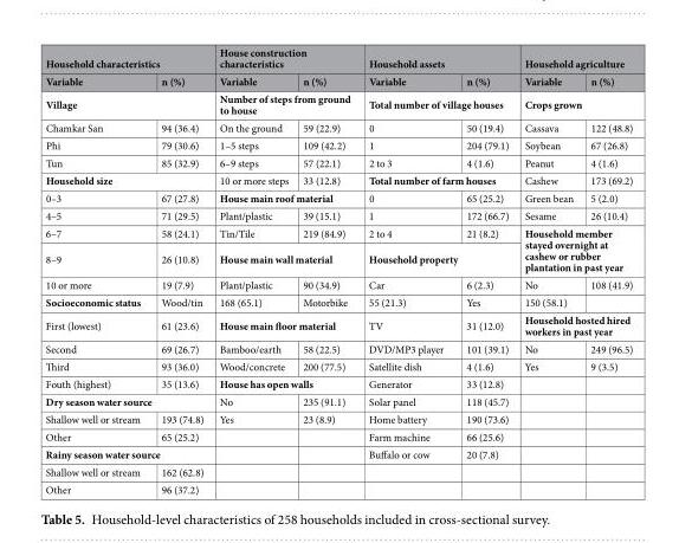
<table><thead><tr><td colspan="2">Household characteristics</td><td colspan="2">House construction characteristics</td><td colspan="2">Household assets</td><td colspan="2">Household agriculture</td></tr><tr><td>Variable</td><td>n (%)</td><td>Variable</td><td>n (%)</td><td>Variable</td><td>n (%)</td><td>Variable</td><td>n (%)</td></tr></thead><tbody><tr><td colspan="2">Village</td><td colspan="2">Number of steps from ground to house</td><td colspan="2">Total number of village houses</td><td colspan="2">Crops grown</td></tr><tr><td>Chamkar San</td><td>94 (36.4)</td><td>On the ground</td><td>59 (22.9)</td><td>0</td><td>50 (19.4)</td><td>Cassava</td><td>122 (48.8)</td></tr><tr><td>Phi</td><td>79 (30.6)</td><td>1–5 steps</td><td>109 (42.2)</td><td>1</td><td>204 (79.1)</td><td>Soybean</td><td>67 (26.8)</td></tr><tr><td>Tun</td><td>85 (32.9)</td><td>6–9 steps</td><td>57 (22.1)</td><td>2 to 3</td><td>4 (1.6)</td><td>Peanut</td><td>4 (1.6)</td></tr><tr><td colspan="2">Household size</td><td>10 or more steps</td><td>33 (12.8)</td><td colspan="2">Total number of farm houses</td><td>Cashew</td><td>173 (69.2)</td></tr><tr><td>0–3</td><td>67 (27.8)</td><td colspan="2">House main roof material</td><td>0</td><td>65 (25.2)</td><td>Green bean</td><td>5 (2.0)</td></tr><tr><td>4–5</td><td>71 (29.5)</td><td>Plant/plastic</td><td>39 (15.1)</td><td>1</td><td>172 (66.7)</td><td>Sesame</td><td>26 (10.4)</td></tr><tr><td>6–7</td><td>58 (24.1)</td><td>Tin/Tile</td><td>219 (84.9)</td><td>2 to 4</td><td>21 (8.2)</td><td rowspan="2" colspan="2">Household member stayed overnight at cashew or rubber plantation in past year</td></tr><tr><td>8–9</td><td>26 (10.8)</td><td colspan="2">House main wall material</td><td colspan="2">Household property</td></tr><tr><td>10 or more</td><td>19 (7.9)</td><td>Plant/plastic</td><td>90 (34.9)</td><td>Car</td><td>6 (2.3)</td><td>No</td><td>108 (41.9)</td></tr><tr><td>Socioeconomic status</td><td>Wood/tin</td><td>168 (65.1)</td><td>Motorbike</td><td>55 (21.3)</td><td>Yes</td><td>150 (58.1)</td><td></td></tr><tr><td>First (lowest)</td><td>61 (23.6)</td><td colspan="2">House main floor material</td><td>TV</td><td>31 (12.0)</td><td colspan="2">Household hosted hired workers in past year</td></tr><tr><td>Second</td><td>69 (26.7)</td><td>Bamboo/earth</td><td>58 (22.5)</td><td>DVD/MP3 player</td><td>101 (39.1)</td><td>No</td><td>249 (96.5)</td></tr><tr><td>Third</td><td>93 (36.0)</td><td>Wood/concrete</td><td>200 (77.5)</td><td>Satellite dish</td><td>4 (1.6)</td><td>Yes</td><td>9 (3.5)</td></tr><tr><td>Fouth (highest)</td><td>35 (13.6)</td><td colspan="2">House has open walls</td><td>Generator</td><td>33 (12.8)</td><td></td><td></td></tr><tr><td colspan="2">Dry season water source</td><td>No</td><td>235 (91.1)</td><td>Solar panel</td><td>118 (45.7)</td><td></td><td></td></tr><tr><td>Shallow well or stream</td><td>193 (74.8)</td><td>Yes</td><td>23 (8.9)</td><td>Home battery</td><td>190 (73.6)</td><td></td><td></td></tr><tr><td>Other</td><td>65 (25.2)</td><td></td><td></td><td>Farm machine</td><td>66 (25.6)</td><td></td><td></td></tr><tr><td colspan="2">Rainy season water source</td><td></td><td></td><td>Buffalo or cow</td><td>20 (7.8)</td><td></td><td></td></tr><tr><td>Shallow well or stream</td><td>162 (62.8)</td><td></td><td></td><td></td><td></td><td></td><td></td></tr><tr><td>Other</td><td>96 (37.2)</td><td></td><td></td><td></td><td></td><td></td><td></td></tr></tbody></table>